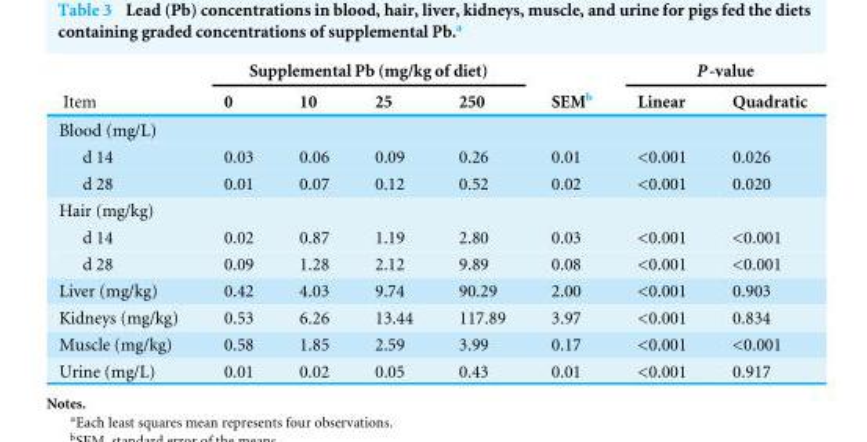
<table><thead><tr><td rowspan="2">Item</td><td colspan="4">Supplemental Pb (mg/kg of diet)</td><td rowspan="2">SEM<sup>b</sup></td><td colspan="2">P-value</td></tr><tr><td>0</td><td>10</td><td>25</td><td>250</td><td>Linear</td><td>Quadratic</td></tr></thead><tbody><tr><td colspan="8">Blood (mg/L)</td></tr><tr><td>d 14</td><td>0.03</td><td>0.06</td><td>0.09</td><td>0.26</td><td>0.01</td><td>&lt;0.001</td><td>0.026</td></tr><tr><td>d 28</td><td>0.01</td><td>0.07</td><td>0.12</td><td>0.52</td><td>0.02</td><td>&lt;0.001</td><td>0.020</td></tr><tr><td colspan="8">Hair (mg/kg)</td></tr><tr><td>d 14</td><td>0.02</td><td>0.87</td><td>1.19</td><td>2.80</td><td>0.03</td><td>&lt;0.001</td><td>&lt;0.001</td></tr><tr><td>d 28</td><td>0.09</td><td>1.28</td><td>2.12</td><td>9.89</td><td>0.08</td><td>&lt;0.001</td><td>&lt;0.001</td></tr><tr><td>Liver (mg/kg)</td><td>0.42</td><td>4.03</td><td>9.74</td><td>90.29</td><td>2.00</td><td>&lt;0.001</td><td>0.903</td></tr><tr><td>Kidneys (mg/kg)</td><td>0.53</td><td>6.26</td><td>13.44</td><td>117.89</td><td>3.97</td><td>&lt;0.001</td><td>0.834</td></tr><tr><td>Muscle (mg/kg)</td><td>0.58</td><td>1.85</td><td>2.59</td><td>3.99</td><td>0.17</td><td>&lt;0.001</td><td>&lt;0.001</td></tr><tr><td>Urine (mg/L)</td><td>0.01</td><td>0.02</td><td>0.05</td><td>0.43</td><td>0.01</td><td>&lt;0.001</td><td>0.917</td></tr></tbody></table>